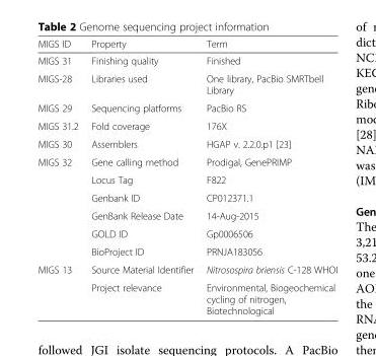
<table><thead><tr><td>MIGS ID</td><td>Property</td><td>Term</td></tr></thead><tbody><tr><td>MIGS 31</td><td>Finishing quality</td><td>Finished</td></tr><tr><td>MIGS-28</td><td>Libraries used</td><td>One library, PacBio SMRTbell Library</td></tr><tr><td>MIGS 29</td><td>Sequencing platforms</td><td>PacBio RS</td></tr><tr><td>MIGS 31.2</td><td>Fold coverage</td><td>176X</td></tr><tr><td>MIGS 30</td><td>Assemblers</td><td>HGAP v. 2.2.0.p1 [23]</td></tr><tr><td rowspan="6">MIGS 32</td><td>Gene calling method</td><td>Prodigal, GenePRIMP</td></tr><tr><td>Locus Tag</td><td>F822</td></tr><tr><td>Genbank ID</td><td>CP012371.1</td></tr><tr><td>GenBank Release Date</td><td>14-Aug-2015</td></tr><tr><td>GOLD ID</td><td>Gp0006506</td></tr><tr><td>BioProject ID</td><td>PRNJA183056</td></tr><tr><td rowspan="2">MIGS 13</td><td>Source Material Identifier</td><td>Nitrosospira briensis C-128 WHOI</td></tr><tr><td>Project relevance</td><td>Environmental, Biogeochemical cycling of nitrogen, Biotechnological</td></tr></tbody></table>